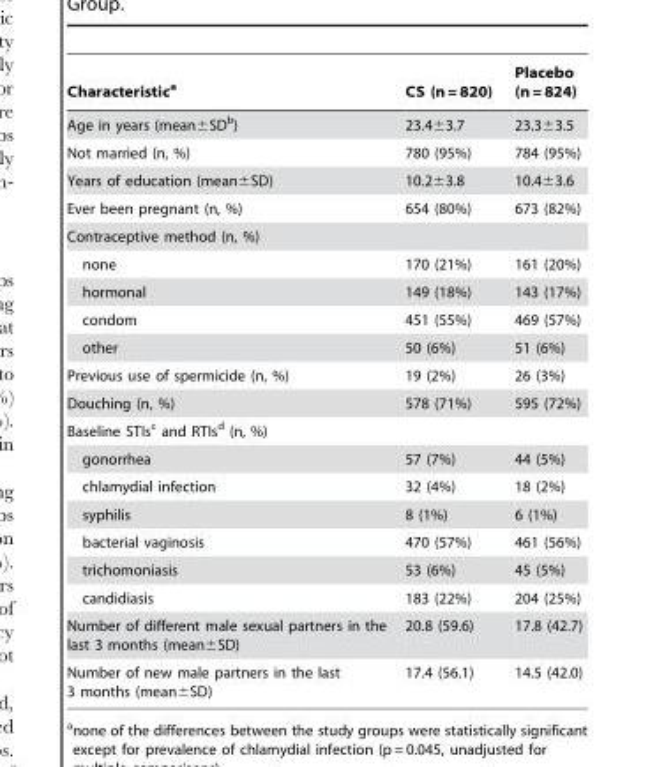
<table><thead><tr><td>Characteristic<sup>a</sup></td><td>CS (n = 820)</td><td>Placebo (n = 824)</td></tr></thead><tbody><tr><td>Age in years (mean±SD<sup>b</sup>)</td><td>23.4±3.7</td><td>23.3±3.5</td></tr><tr><td>Not married (n, %)</td><td>780 (95%)</td><td>784 (95%)</td></tr><tr><td>Years of education (mean±SD)</td><td>10.2±3.8</td><td>10.4±3.6</td></tr><tr><td>Ever been pregnant (n, %)</td><td>654 (80%)</td><td>673 (82%)</td></tr><tr><td colspan="3">Contraceptive method (n, %)</td></tr><tr><td>none</td><td>170 (21%)</td><td>161 (20%)</td></tr><tr><td>hormonal</td><td>149 (18%)</td><td>143 (17%)</td></tr><tr><td>condom</td><td>451 (55%)</td><td>469 (57%)</td></tr><tr><td>other</td><td>50 (6%)</td><td>51 (6%)</td></tr><tr><td>Previous use of spermicide (n, %)</td><td>19 (2%)</td><td>26 (3%)</td></tr><tr><td>Douching (n, %)</td><td>578 (71%)</td><td>595 (72%)</td></tr><tr><td colspan="3">Baseline STIs<sup>c</sup> and RTIs<sup>d</sup> (n, %)</td></tr><tr><td>gonorrhea</td><td>57 (7%)</td><td>44 (5%)</td></tr><tr><td>chlamydial infection</td><td>32 (4%)</td><td>18 (2%)</td></tr><tr><td>syphilis</td><td>8 (1%)</td><td>6 (1%)</td></tr><tr><td>bacterial vaginosis</td><td>470 (57%)</td><td>461 (56%)</td></tr><tr><td>trichomoniasis</td><td>53 (6%)</td><td>45 (5%)</td></tr><tr><td>candidiasis</td><td>183 (22%)</td><td>204 (25%)</td></tr><tr><td>Number of different male sexual partners in the last 3 months (mean±SD)</td><td>20.8 (59.6)</td><td>17.8 (42.7)</td></tr><tr><td>Number of new male partners in the last 3 months (mean±SD)</td><td>17.4 (56.1)</td><td>14.5 (42.0)</td></tr></tbody></table>